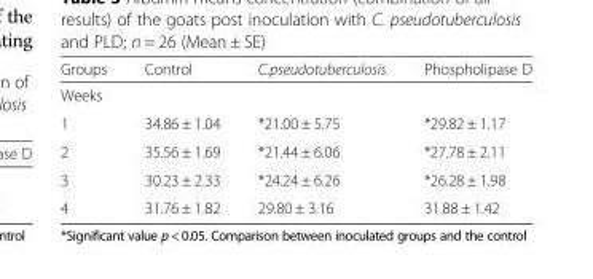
<table><thead><tr><td>Groups</td><td>Control</td><td>C.pseudotuberculosis</td><td>Phospholipase D</td></tr></thead><tbody><tr><td colspan="4">Weeks</td></tr><tr><td>1</td><td>34.86 ± 1.04</td><td>*21.00 ± 5.75</td><td>*29.82 ± 1.17</td></tr><tr><td>2</td><td>35.56 ± 1.69</td><td>*21.44 ± 6.06</td><td>*27.78 ± 2.11</td></tr><tr><td>3</td><td>30.23 ± 2.33</td><td>*24.24 ± 6.26</td><td>*26.28 ± 1.98</td></tr><tr><td>4</td><td>31.76 ± 1.82</td><td>29.80 ± 3.16</td><td>31.88 ± 1.42</td></tr></tbody></table>